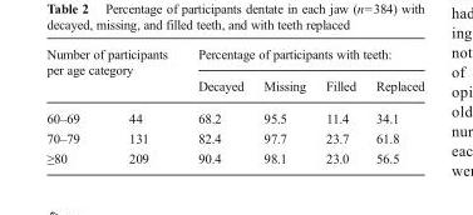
<table><thead><tr><td rowspan="2" colspan="2">Number of participants per age category</td><td colspan="4">Percentage of participants with teeth:</td></tr><tr><td rowspan="2">Decayed 68.2</td><td rowspan="2">Missing 95.5</td><td rowspan="2">Filled 11.4</td><td rowspan="2">Replaced 34.1</td></tr><tr><td>60–69</td><td>44</td></tr></thead><tbody><tr><td>70–79</td><td>131</td><td>82.4</td><td>97.7</td><td>23.7</td><td>61.8</td></tr><tr><td>≥80</td><td>209</td><td>90.4</td><td>98.1</td><td>23.0</td><td>56.5</td></tr></tbody></table>